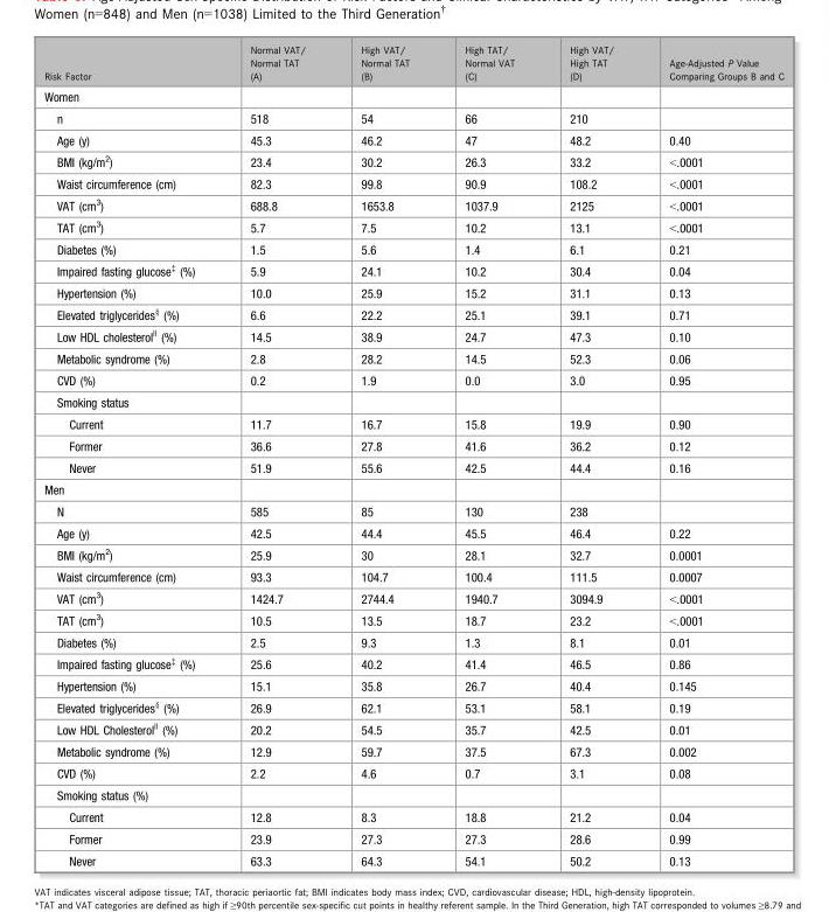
<table><thead><tr><td>Risk Factor</td><td>Normal VAT/ Normal TAT (A)</td><td>High VAT/ Normal TAT (B)</td><td>High TAT/ Normal VAT (C)</td><td>High VAT/ High TAT (D)</td><td>Age-Adjusted P Value Comparing Groups B and C</td></tr></thead><tbody><tr><td colspan="6">Women</td></tr><tr><td>n</td><td>518</td><td>54</td><td>66</td><td>210</td><td></td></tr><tr><td>Age (y)</td><td>45.3</td><td>46.2</td><td>47</td><td>48.2</td><td>0.40</td></tr><tr><td>BMI (kg/m<sup>2</sup>)</td><td>23.4</td><td>30.2</td><td>26.3</td><td>33.2</td><td>&lt;.0001</td></tr><tr><td>Waist circumference (cm)</td><td>82.3</td><td>99.8</td><td>90.9</td><td>108.2</td><td>&lt;.0001</td></tr><tr><td>VAT (cm<sup>3</sup>)</td><td>688.8</td><td>1653.8</td><td>1037.9</td><td>2125</td><td>&lt;.0001</td></tr><tr><td>TAT (cm<sup>3</sup>)</td><td>5.7</td><td>7.5</td><td>10.2</td><td>13.1</td><td>&lt;.0001</td></tr><tr><td>Diabetes (%)</td><td>1.5</td><td>5.6</td><td>1.4</td><td>6.1</td><td>0.21</td></tr><tr><td>Impaired fasting glucose‡ (%)</td><td>5.9</td><td>24.1</td><td>10.2</td><td>30.4</td><td>0.04</td></tr><tr><td>Hypertension (%)</td><td>10.0</td><td>25.9</td><td>15.2</td><td>31.1</td><td>0.13</td></tr><tr><td>Elevated triglycerides§ (%)</td><td>6.6</td><td>22.2</td><td>25.1</td><td>39.1</td><td>0.71</td></tr><tr><td>Low HDL cholesterol|| (%)</td><td>14.5</td><td>38.9</td><td>24.7</td><td>47.3</td><td>0.10</td></tr><tr><td>Metabolic syndrome (%)</td><td>2.8</td><td>28.2</td><td>14.5</td><td>52.3</td><td>0.06</td></tr><tr><td>CVD (%)</td><td>0.2</td><td>1.9</td><td>0.0</td><td>3.0</td><td>0.95</td></tr><tr><td colspan="6">Smoking status</td></tr><tr><td>Current</td><td>11.7</td><td>16.7</td><td>15.8</td><td>19.9</td><td>0.90</td></tr><tr><td>Former</td><td>36.6</td><td>27.8</td><td>41.6</td><td>36.2</td><td>0.12</td></tr><tr><td>Never</td><td>51.9</td><td>55.6</td><td>42.5</td><td>44.4</td><td>0.16</td></tr><tr><td colspan="6">Men</td></tr><tr><td>N</td><td>585</td><td>85</td><td>130</td><td>238</td><td></td></tr><tr><td>Age (y)</td><td>42.5</td><td>44.4</td><td>45.5</td><td>46.4</td><td>0.22</td></tr><tr><td>BMI (kg/m<sup>2</sup>)</td><td>25.9</td><td>30</td><td>28.1</td><td>32.7</td><td>0.0001</td></tr><tr><td>Waist circumference (cm)</td><td>93.3</td><td>104.7</td><td>100.4</td><td>111.5</td><td>0.0007</td></tr><tr><td>VAT (cm<sup>3</sup>)</td><td>1424.7</td><td>2744.4</td><td>1940.7</td><td>3094.9</td><td>&lt;.0001</td></tr><tr><td>TAT (cm<sup>3</sup>)</td><td>10.5</td><td>13.5</td><td>18.7</td><td>23.2</td><td>&lt;.0001</td></tr><tr><td>Diabetes (%)</td><td>2.5</td><td>9.3</td><td>1.3</td><td>8.1</td><td>0.01</td></tr><tr><td>Impaired fasting glucose‡ (%)</td><td>25.6</td><td>40.2</td><td>41.4</td><td>46.5</td><td>0.86</td></tr><tr><td>Hypertension (%)</td><td>15.1</td><td>35.8</td><td>26.7</td><td>40.4</td><td>0.145</td></tr><tr><td>Elevated triglycerides§ (%)</td><td>26.9</td><td>62.1</td><td>53.1</td><td>58.1</td><td>0.19</td></tr><tr><td>Low HDL Cholesterol|| (%)</td><td>20.2</td><td>54.5</td><td>35.7</td><td>42.5</td><td>0.01</td></tr><tr><td>Metabolic syndrome (%)</td><td>12.9</td><td>59.7</td><td>37.5</td><td>67.3</td><td>0.002</td></tr><tr><td>CVD (%)</td><td>2.2</td><td>4.6</td><td>0.7</td><td>3.1</td><td>0.08</td></tr><tr><td colspan="6">Smoking status (%)</td></tr><tr><td>Current</td><td>12.8</td><td>8.3</td><td>18.8</td><td>21.2</td><td>0.04</td></tr><tr><td>Former</td><td>23.9</td><td>27.3</td><td>27.3</td><td>28.6</td><td>0.99</td></tr><tr><td>Never</td><td>63.3</td><td>64.3</td><td>54.1</td><td>50.2</td><td>0.13</td></tr></tbody></table>